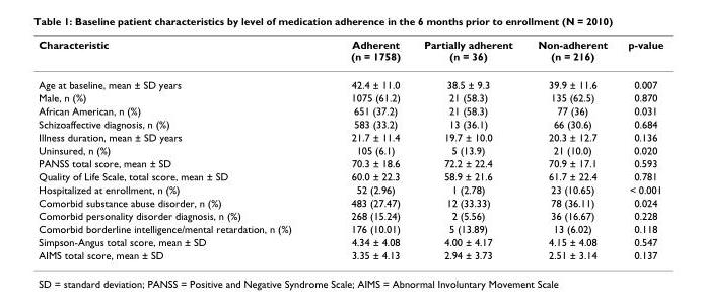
<table><thead><tr><td>Characteristic</td><td>Adherent (n = 1758)</td><td>Partially adherent (n = 36)</td><td>Non-adherent (n = 216)</td><td>p-value</td></tr></thead><tbody><tr><td>Age at baseline, mean ± SD years</td><td>42.4 ± 11.0</td><td>38.5 ± 9.3</td><td>39.9 ± 11.6</td><td>0.007</td></tr><tr><td>Male, n (%)</td><td>1075 (61.2)</td><td>21 (58.3)</td><td>135 (62.5)</td><td>0.870</td></tr><tr><td>African American, n (%)</td><td>651 (37.2)</td><td>21 (58.3)</td><td>77 (36)</td><td>0.031</td></tr><tr><td>Schizoaffective diagnosis, n (%)</td><td>583 (33.2)</td><td>13 (36.1)</td><td>66 (30.6)</td><td>0.684</td></tr><tr><td>Illness duration, mean ± SD years</td><td>21.7 ± 11.4</td><td>19.7 ± 10.0</td><td>20.3 ± 12.7</td><td>0.136</td></tr><tr><td>Uninsured, n (%)</td><td>105 (6.1)</td><td>5 (13.9)</td><td>21 (10.0)</td><td>0.020</td></tr><tr><td>PANSS total score, mean ± SD</td><td>70.3 ± 18.6</td><td>72.2 ± 22.4</td><td>70.9 ± 17.1</td><td>0.593</td></tr><tr><td>Quality of Life Scale, total score, mean ± SD</td><td>60.0 ± 22.3</td><td>58.9 ± 21.6</td><td>61.7 ± 22.4</td><td>0.781</td></tr><tr><td>Hospitalized at enrollment, n (%)</td><td>52 (2.96)</td><td>1 (2.78)</td><td>23 (10.65)</td><td>&lt; 0.001</td></tr><tr><td>Comorbid substance abuse disorder, n (%)</td><td>483 (27.47)</td><td>12 (33.33)</td><td>78 (36.11)</td><td>0.024</td></tr><tr><td>Comorbid personality disorder diagnosis, n (%)</td><td>268 (15.24)</td><td>2 (5.56)</td><td>36 (16.67)</td><td>0.228</td></tr><tr><td>Comorbid borderline intelligence/mental retardation, n (%)</td><td>176 (10.01)</td><td>5 (13.89)</td><td>13 (6.02)</td><td>0.118</td></tr><tr><td>Simpson-Angus total score, mean ± SD</td><td>4.34 ± 4.08</td><td>4.00 ± 4.17</td><td>4.15 ± 4.08</td><td>0.547</td></tr><tr><td>AIMS total score, mean ± SD</td><td>3.35 ± 4.13</td><td>2.94 ± 3.73</td><td>2.51 ± 3.14</td><td>0.137</td></tr></tbody></table>